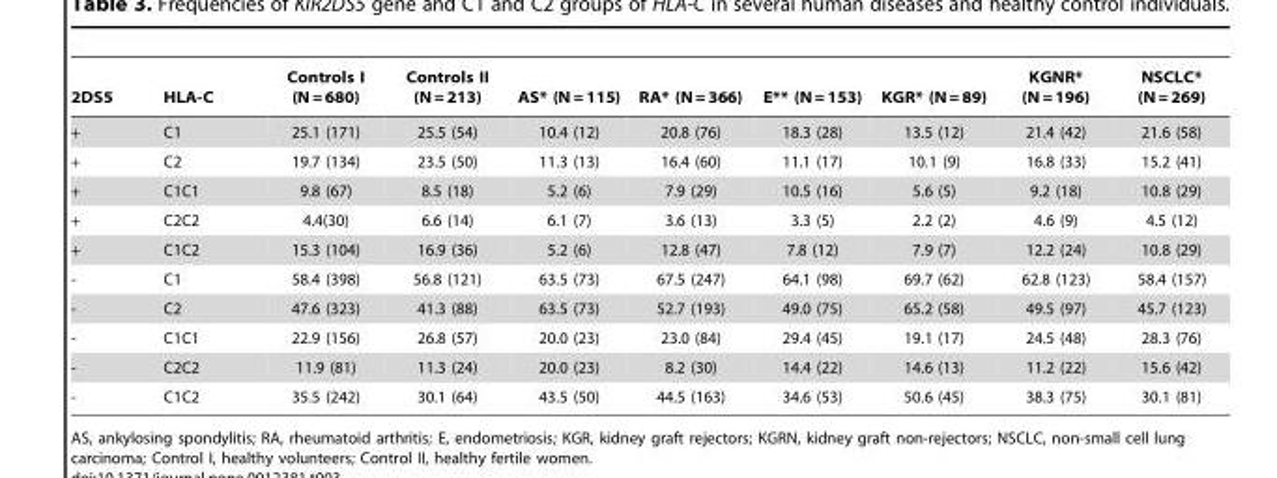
<table><thead><tr><td>2DS5</td><td>HLA-C</td><td>Controls I (N = 680)</td><td>Controls II (N = 213)</td><td>AS* (N = 115)</td><td>RA* (N = 366)</td><td>E** (N = 153)</td><td>KGR* (N = 89)</td><td>KGNR* (N = 196)</td><td>NSCLC* (N = 269)</td></tr></thead><tbody><tr><td>+</td><td>C1</td><td>25.1 (171)</td><td>25.5 (54)</td><td>10.4 (12)</td><td>20.8 (76)</td><td>18.3 (28)</td><td>13.5 (12)</td><td>21.4 (42)</td><td>21.6 (58)</td></tr><tr><td>+</td><td>C2</td><td>19.7 (134)</td><td>23.5 (50)</td><td>11.3 (13)</td><td>16.4 (60)</td><td>11.1 (17)</td><td>10.1 (9)</td><td>16.8 (33)</td><td>15.2 (41)</td></tr><tr><td>+</td><td>C1C1</td><td>9.8 (67)</td><td>8.5 (18)</td><td>5.2 (6)</td><td>7.9 (29)</td><td>10.5 (16)</td><td>5.6 (5)</td><td>9.2 (18)</td><td>10.8 (29)</td></tr><tr><td>+</td><td>C2C2</td><td>4.4(30)</td><td>6.6 (14)</td><td>6.1 (7)</td><td>3.6 (13)</td><td>3.3 (5)</td><td>2.2 (2)</td><td>4.6 (9)</td><td>4.5 (12)</td></tr><tr><td>+</td><td>C1C2</td><td>15.3 (104)</td><td>16.9 (36)</td><td>5.2 (6)</td><td>12.8 (47)</td><td>7.8 (12)</td><td>7.9 (7)</td><td>12.2 (24)</td><td>10.8 (29)</td></tr><tr><td>-</td><td>C1</td><td>58.4 (398)</td><td>56.8 (121)</td><td>63.5 (73)</td><td>67.5 (247)</td><td>64.1 (98)</td><td>69.7 (62)</td><td>62.8 (123)</td><td>58.4 (157)</td></tr><tr><td>-</td><td>C2</td><td>47.6 (323)</td><td>41.3 (88)</td><td>63.5 (73)</td><td>52.7 (193)</td><td>49.0 (75)</td><td>65.2 (58)</td><td>49.5 (97)</td><td>45.7 (123)</td></tr><tr><td>-</td><td>C1C1</td><td>22.9 (156)</td><td>26.8 (57)</td><td>20.0 (23)</td><td>23.0 (84)</td><td>29.4 (45)</td><td>19.1 (17)</td><td>24.5 (48)</td><td>28.3 (76)</td></tr><tr><td>-</td><td>C2C2</td><td>11.9 (81)</td><td>11.3 (24)</td><td>20.0 (23)</td><td>8.2 (30)</td><td>14.4 (22)</td><td>14.6 (13)</td><td>11.2 (22)</td><td>15.6 (42)</td></tr><tr><td>-</td><td>C1C2</td><td>35.5 (242)</td><td>30.1 (64)</td><td>43.5 (50)</td><td>44.5 (163)</td><td>34.6 (53)</td><td>50.6 (45)</td><td>38.3 (75)</td><td>30.1 (81)</td></tr></tbody></table>